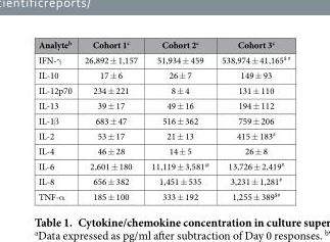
<table><thead><tr><td>Analyte<sup>b</sup></td><td>Cohort 1<sup>c</sup></td><td>Cohort 2<sup>c</sup></td><td>Cohort 3<sup>c</sup></td></tr></thead><tbody><tr><td>IFN-γ</td><td>26,892 ± 1,157</td><td>51,934 ± 459</td><td>538,974 ± 41,165<sup>$ #</sup></td></tr><tr><td>IL-10</td><td>17 ± 6</td><td>26 ± 7</td><td>149 ± 93</td></tr><tr><td>IL-12p70</td><td>234 ± 221</td><td>8 ± 4</td><td>131 ± 110</td></tr><tr><td>IL-13</td><td>39 ± 17</td><td>49 ± 16</td><td>194 ± 112</td></tr><tr><td>IL-1β</td><td>683 ± 47</td><td>516 ± 362</td><td>759 ± 206</td></tr><tr><td>IL-2</td><td>53 ± 17</td><td>21 ± 13</td><td>415 ± 183<sup>#</sup></td></tr><tr><td>IL-4</td><td>46 ± 28</td><td>14 ± 5</td><td>26 ± 8</td></tr><tr><td>IL-6</td><td>2,601 ± 180</td><td>11,119 ± 3,581<sup>@</sup></td><td>13,726 ± 2,419<sup>#</sup></td></tr><tr><td>IL-8</td><td>656 ± 382</td><td>1,451 ± 535</td><td>3,231 ± 1,281<sup>#</sup></td></tr><tr><td>TNF-α</td><td>185 ± 100</td><td>333 ± 192</td><td>1,255 ± 389<sup>$#</sup></td></tr></tbody></table>